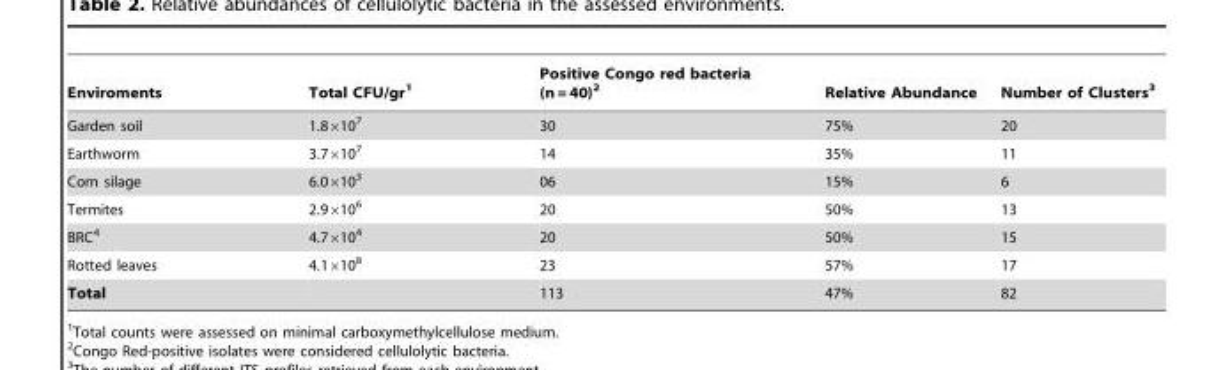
<table><thead><tr><td>Enviroments</td><td>Total CFU/gr<sup>1</sup></td><td>Positive Congo red bacteria (n = 40)<sup>2</sup></td><td>Relative Abundance</td><td>Number of Clusters<sup>3</sup></td></tr></thead><tbody><tr><td>Garden soil</td><td>1.8×10<sup>7</sup></td><td>30</td><td>75%</td><td>20</td></tr><tr><td>Earthworm</td><td>3.7×10<sup>7</sup></td><td>14</td><td>35%</td><td>11</td></tr><tr><td>Corn silage</td><td>6.0×10<sup>3</sup></td><td>06</td><td>15%</td><td>6</td></tr><tr><td>Termites</td><td>2.9×10<sup>6</sup></td><td>20</td><td>50%</td><td>13</td></tr><tr><td>BRC<sup>4</sup></td><td>4.7×10<sup>4</sup></td><td>20</td><td>50%</td><td>15</td></tr><tr><td>Rotted leaves</td><td>4.1×10<sup>8</sup></td><td>23</td><td>57%</td><td>17</td></tr><tr><td>Total</td><td></td><td>113</td><td>47%</td><td>82</td></tr></tbody></table>